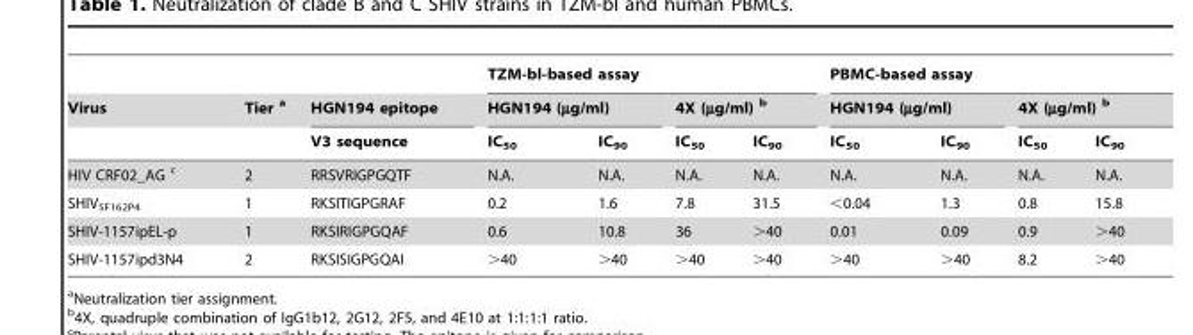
<table><thead><tr><td rowspan="3">Virus</td><td rowspan="3">Tier a</td><td rowspan="3">HGN194 epitope V3 sequence</td><td colspan="4">TZM-bl-based assay</td><td colspan="4">PBMC-based assay</td></tr><tr><td colspan="2">HGN194 (µg/ml)</td><td colspan="2">4X (µg/ml) b</td><td colspan="2">HGN194 (µg/ml)</td><td colspan="2">4X (µg/ml) b</td></tr><tr><td>IC<sub>50</sub></td><td>IC<sub>90</sub></td><td>IC<sub>50</sub></td><td>IC<sub>90</sub></td><td>IC<sub>50</sub></td><td>IC<sub>90</sub></td><td>IC<sub>50</sub></td><td>IC<sub>90</sub></td></tr></thead><tbody><tr><td>HIV CRF02_AG c</td><td>2</td><td>RRSVRIGPGQTF</td><td>N.A.</td><td>N.A.</td><td>N.A.</td><td>N.A.</td><td>N.A.</td><td>N.A.</td><td>N.A.</td><td>N.A.</td></tr><tr><td>SHIV<sub>SF162P4</sub></td><td>1</td><td>RKSITIGPGRAF</td><td>0.2</td><td>1.6</td><td>7.8</td><td>31.5</td><td>&lt;0.04</td><td>1.3</td><td>0.8</td><td>15.8</td></tr><tr><td>SHIV-1157ipEL-p</td><td>1</td><td>RKSIRIGPGQAF</td><td>0.6</td><td>10.8</td><td>36</td><td>&gt;40</td><td>0.01</td><td>0.09</td><td>0.9</td><td>&gt;40</td></tr><tr><td>SHIV-1157ipd3N4</td><td>2</td><td>RKSISIGPGQAI</td><td>&gt;40</td><td>&gt;40</td><td>&gt;40</td><td>&gt;40</td><td>&gt;40</td><td>&gt;40</td><td>8.2</td><td>&gt;40</td></tr></tbody></table>